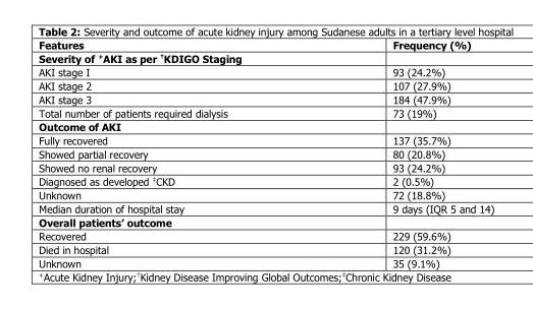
<table><thead><tr><td>Features</td><td>Frequency (%)</td></tr></thead><tbody><tr><td colspan="2">Severity of <sup>+</sup>AKI as per <sup>†</sup>KDIGO Staging</td></tr><tr><td>AKI stage I</td><td>93 (24.2%)</td></tr><tr><td>AKI stage 2</td><td>107 (27.9%)</td></tr><tr><td>AKI stage 3</td><td>184 (47.9%)</td></tr><tr><td>Total number of patients required dialysis</td><td>73 (19%)</td></tr><tr><td colspan="2">Outcome of AKI</td></tr><tr><td>Fully recovered</td><td>137 (35.7%)</td></tr><tr><td>Showed partial recovery</td><td>80 (20.8%)</td></tr><tr><td>Showed no renal recovery</td><td>93 (24.2%)</td></tr><tr><td>Diagnosed as developed <sup>‡</sup>CKD</td><td>2 (0.5%)</td></tr><tr><td>Unknown</td><td>72 (18.8%)</td></tr><tr><td>Median duration of hospital stay</td><td>9 days (IQR 5 and 14)</td></tr><tr><td colspan="2">Overall patients’ outcome</td></tr><tr><td>Recovered</td><td>229 (59.6%)</td></tr><tr><td>Died in hospital</td><td>120 (31.2%)</td></tr><tr><td>Unknown</td><td>35 (9.1%)</td></tr></tbody></table>